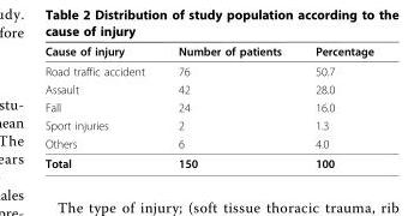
<table><thead><tr><td>Cause of injury</td><td>Number of patients</td><td>Percentage</td></tr></thead><tbody><tr><td>Road traffic accident</td><td>76</td><td>50.7</td></tr><tr><td>Assault</td><td>42</td><td>28.0</td></tr><tr><td>Fall</td><td>24</td><td>16.0</td></tr><tr><td>Sport injuries</td><td>2</td><td>1.3</td></tr><tr><td>Others</td><td>6</td><td>4.0</td></tr><tr><td>Total</td><td>150</td><td>100</td></tr></tbody></table>